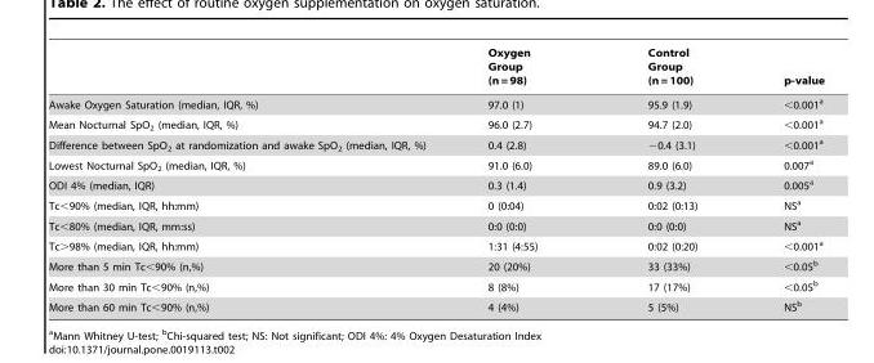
<table><thead><tr><td></td><td>Oxygen Group (n = 98)</td><td>Control Group (n = 100)</td><td>p-value</td></tr></thead><tbody><tr><td>Awake Oxygen Saturation (median, IQR, %)</td><td>97.0 (1)</td><td>95.9 (1.9)</td><td>&lt;0.001<sup>a</sup></td></tr><tr><td>Mean Nocturnal SpO<sub>2</sub> (median, IQR, %)</td><td>96.0 (2.7)</td><td>94.7 (2.0)</td><td>&lt;0.001<sup>a</sup></td></tr><tr><td>Difference between SpO<sub>2</sub> at randomization and awake SpO<sub>2</sub> (median, IQR, %)</td><td>0.4 (2.8)</td><td>−0.4 (3.1)</td><td>&lt;0.001<sup>a</sup></td></tr><tr><td>Lowest Nocturnal SpO<sub>2</sub> (median, IQR, %)</td><td>91.0 (6.0)</td><td>89.0 (6.0)</td><td>0.007<sup>a</sup></td></tr><tr><td>ODI 4% (median, IQR)</td><td>0.3 (1.4)</td><td>0.9 (3.2)</td><td>0.005<sup>a</sup></td></tr><tr><td>Tc&lt;90% (median, IQR, hh:mm)</td><td>0 (0:04)</td><td>0:02 (0:13)</td><td>NS<sup>a</sup></td></tr><tr><td>Tc&lt;80% (median, IQR, mm:ss)</td><td>0:0 (0:0)</td><td>0:0 (0:0)</td><td>NS<sup>a</sup></td></tr><tr><td>Tc&gt;98% (median, IQR, hh:mm)</td><td>1:31 (4:55)</td><td>0:02 (0:20)</td><td>&lt;0.001<sup>a</sup></td></tr><tr><td>More than 5 min Tc&lt;90% (n,%)</td><td>20 (20%)</td><td>33 (33%)</td><td>&lt;0.05<sup>b</sup></td></tr><tr><td>More than 30 min Tc&lt;90% (n,%)</td><td>8 (8%)</td><td>17 (17%)</td><td>&lt;0.05<sup>b</sup></td></tr><tr><td>More than 60 min Tc&lt;90% (n,%)</td><td>4 (4%)</td><td>5 (5%)</td><td>NS<sup>b</sup></td></tr></tbody></table>